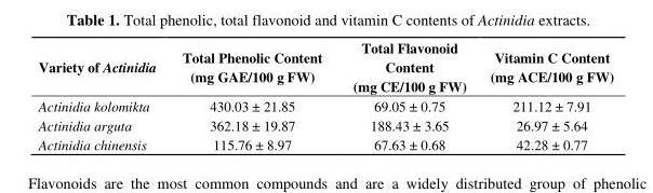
<table><thead><tr><td>Variety of Actinidia</td><td>Total Phenolic Content (mg GAE/100 g FW)</td><td>Total Flavonoid Content (mg CE/100 g FW)</td><td>Vitamin C Content (mg ACE/100 g FW)</td></tr></thead><tbody><tr><td>Actinidia kolomikta</td><td>430.03 ± 21.85</td><td>69.05 ± 0.75</td><td>211.12 ± 7.91</td></tr><tr><td>Actinidia arguta</td><td>362.18 ± 19.87</td><td>188.43 ± 3.65</td><td>26.97 ± 5.64</td></tr><tr><td>Actinidia chinensis</td><td>115.76 ± 8.97</td><td>67.63 ± 0.68</td><td>42.28 ± 0.77</td></tr></tbody></table>